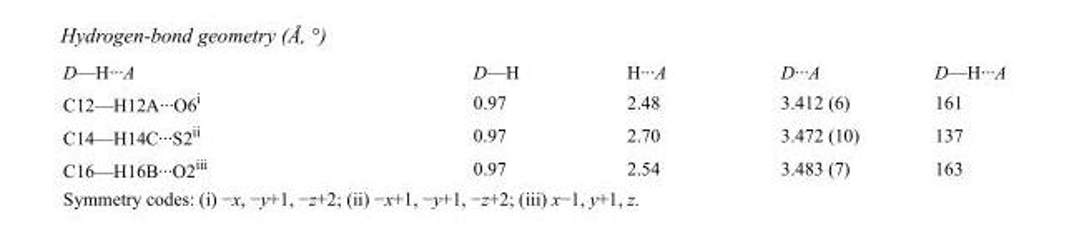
<table><tbody><tr><td>D—H···A</td><td>D—H</td><td>H···A</td><td>D···A</td><td>D—H···A</td></tr><tr><td>C12—H12A···O6<sup>i</sup></td><td>0.97</td><td>2.48</td><td>3.412 (6)</td><td>161</td></tr><tr><td>C14—H14C···S2<sup>ii</sup></td><td>0.97</td><td>2.70</td><td>3.472 (10)</td><td>137</td></tr><tr><td>C16—H16B···O2<sup>iii</sup></td><td>0.97</td><td>2.54</td><td>3.483 (7)</td><td>163</td></tr></tbody></table>